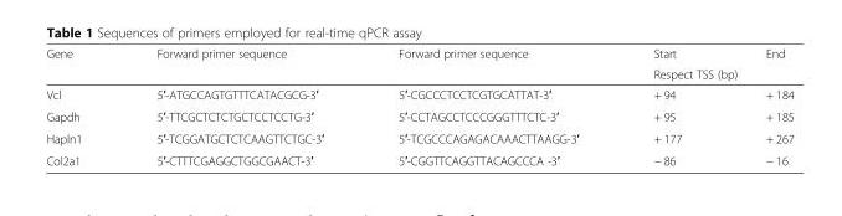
<table><thead><tr><td rowspan="2">Gene</td><td rowspan="2">Forward primer sequence</td><td rowspan="2">Forward primer sequence</td><td>Start</td><td>End</td></tr><tr><td colspan="2">Respect TSS (bp)</td></tr></thead><tbody><tr><td>Vcl</td><td>5′-ATGCCAGTGTTTCATACGCG-3′</td><td>5′-CGCCCTCCTCGTGCATTAT-3′</td><td>+ 94</td><td>+ 184</td></tr><tr><td>Gapdh</td><td>5′-TTCGCTCTCTGCTCCTCCTG-3′</td><td>5′-CCTAGCCTCCCGGGTTTCTC-3′</td><td>+ 95</td><td>+ 185</td></tr><tr><td>Hapln1</td><td>5′-TCGGATGCTCTCAAGTTCTGC-3′</td><td>5′-TCGCCCAGAGACAAACTTAAGG-3′</td><td>+ 177</td><td>+ 267</td></tr><tr><td>Col2a1</td><td>5′-CTTTCGAGGCTGGCGAACT-3′</td><td>5′-CGGTTCAGGTTACAGCCCA -3′</td><td>− 86</td><td>− 16</td></tr></tbody></table>